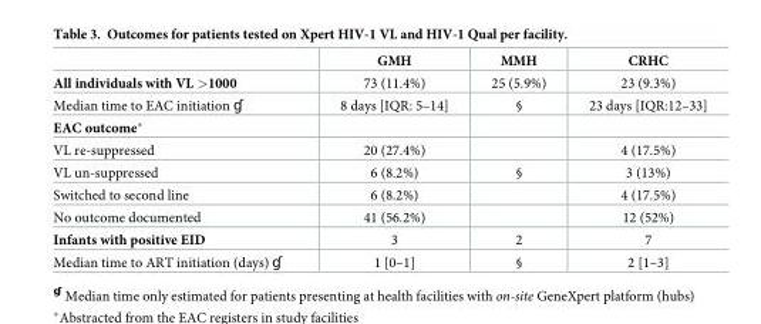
<table><thead><tr><td></td><td>GMH</td><td>MMH</td><td>CRHC</td></tr></thead><tbody><tr><td>All individuals with VL &gt;1000</td><td>73 (11.4%)</td><td>25 (5.9%)</td><td>23 (9.3%)</td></tr><tr><td>Median time to EAC initiation ɠ</td><td>8 days [IQR: 5–14]</td><td>§</td><td>23 days [IQR:12–33]</td></tr><tr><td colspan="4">EAC outcome*</td></tr><tr><td>VL re-suppressed</td><td>20 (27.4%)</td><td></td><td>4 (17.5%)</td></tr><tr><td>VL un-suppressed</td><td>6 (8.2%)</td><td>§</td><td>3 (13%)</td></tr><tr><td>Switched to second line</td><td>6 (8.2%)</td><td></td><td>4 (17.5%)</td></tr><tr><td>No outcome documented</td><td>41 (56.2%)</td><td></td><td>12 (52%)</td></tr><tr><td>Infants with positive EID</td><td>3</td><td>2</td><td>7</td></tr><tr><td>Median time to ART initiation (days) ɠ</td><td>1 [0–1]</td><td>§</td><td>2 [1–3]</td></tr></tbody></table>